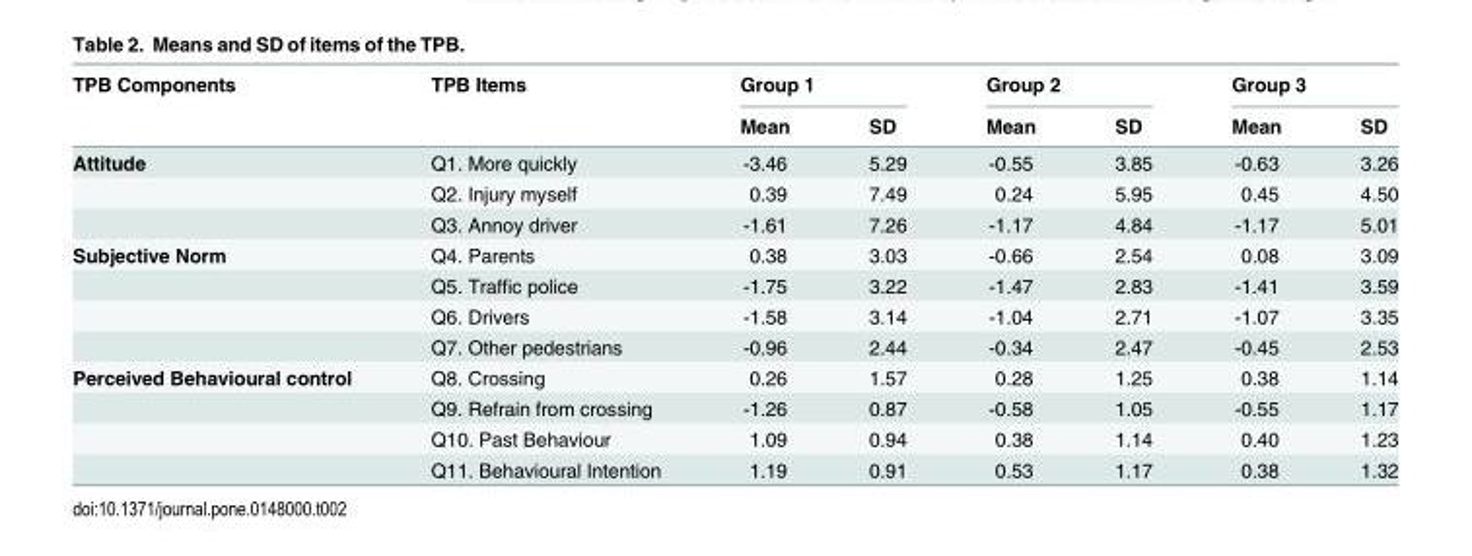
<table><thead><tr><td rowspan="2">TPB Components</td><td rowspan="2">TPB Items</td><td colspan="2">Group 1</td><td colspan="2">Group 2</td><td colspan="2">Group 3</td></tr><tr><td>Mean</td><td>SD</td><td>Mean</td><td>SD</td><td>Mean</td><td>SD</td></tr></thead><tbody><tr><td rowspan="3">Attitude</td><td>Q1. More quickly</td><td>-3.46</td><td>5.29</td><td>-0.55</td><td>3.85</td><td>-0.63</td><td>3.26</td></tr><tr><td>Q2. Injury myself</td><td>0.39</td><td>7.49</td><td>0.24</td><td>5.95</td><td>0.45</td><td>4.50</td></tr><tr><td>Q3. Annoy driver</td><td>-1.61</td><td>7.26</td><td>-1.17</td><td>4.84</td><td>-1.17</td><td>5.01</td></tr><tr><td rowspan="4">Subjective Norm</td><td>Q4. Parents</td><td>0.38</td><td>3.03</td><td>-0.66</td><td>2.54</td><td>0.08</td><td>3.09</td></tr><tr><td>Q5. Traffic police</td><td>-1.75</td><td>3.22</td><td>-1.47</td><td>2.83</td><td>-1.41</td><td>3.59</td></tr><tr><td>Q6. Drivers</td><td>-1.58</td><td>3.14</td><td>-1.04</td><td>2.71</td><td>-1.07</td><td>3.35</td></tr><tr><td>Q7. Other pedestrians</td><td>-0.96</td><td>2.44</td><td>-0.34</td><td>2.47</td><td>-0.45</td><td>2.53</td></tr><tr><td rowspan="4">Perceived Behavioural control</td><td>Q8. Crossing</td><td>0.26</td><td>1.57</td><td>0.28</td><td>1.25</td><td>0.38</td><td>1.14</td></tr><tr><td>Q9. Refrain from crossing</td><td>-1.26</td><td>0.87</td><td>-0.58</td><td>1.05</td><td>-0.55</td><td>1.17</td></tr><tr><td>Q10. Past Behaviour</td><td>1.09</td><td>0.94</td><td>0.38</td><td>1.14</td><td>0.40</td><td>1.23</td></tr><tr><td>Q11. Behavioural Intention</td><td>1.19</td><td>0.91</td><td>0.53</td><td>1.17</td><td>0.38</td><td>1.32</td></tr></tbody></table>